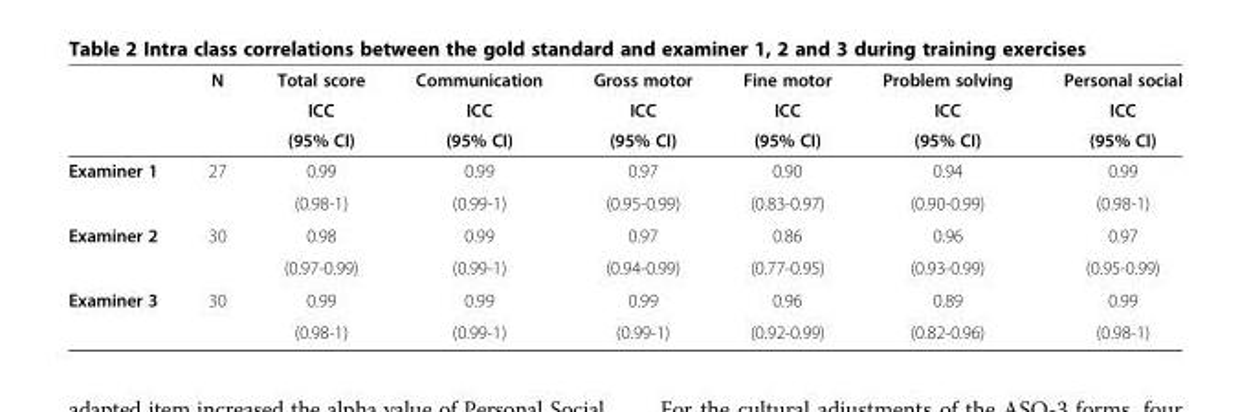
<table><thead><tr><td rowspan="3"></td><td rowspan="3">N</td><td rowspan="3">Total score ICC (95% CI)</td><td rowspan="3">Communication ICC (95% CI)</td><td rowspan="3">Gross motor ICC (95% CI)</td><td rowspan="3">Fine motor ICC (95% CI)</td><td rowspan="3">Problem solving ICC (95% CI)</td><td rowspan="3">Personal social ICC (95% CI)</td></tr><tr></tr><tr></tr></thead><tbody><tr><td rowspan="2">Examiner 1</td><td rowspan="2">27</td><td>0.99</td><td>0.99</td><td>0.97</td><td>0.90</td><td>0.94</td><td>0.99</td></tr><tr><td>(0.98-1)</td><td>(0.99-1)</td><td>(0.95-0.99)</td><td>(0.83-0.97)</td><td>(0.90-0.99)</td><td>(0.98-1)</td></tr><tr><td rowspan="2">Examiner 2</td><td rowspan="2">30</td><td>0.98</td><td>0.99</td><td>0.97</td><td>0.86</td><td>0.96</td><td>0.97</td></tr><tr><td>(0.97-0.99)</td><td>(0.99-1)</td><td>(0.94-0.99)</td><td>(0.77-0.95)</td><td>(0.93-0.99)</td><td>(0.95-0.99)</td></tr><tr><td rowspan="2">Examiner 3</td><td rowspan="2">30</td><td>0.99</td><td>0.99</td><td>0.99</td><td>0.96</td><td>0.89</td><td>0.99</td></tr><tr><td>(0.98-1)</td><td>(0.99-1)</td><td>(0.99-1)</td><td>(0.92-0.99)</td><td>(0.82-0.96)</td><td>(0.98-1)</td></tr></tbody></table>